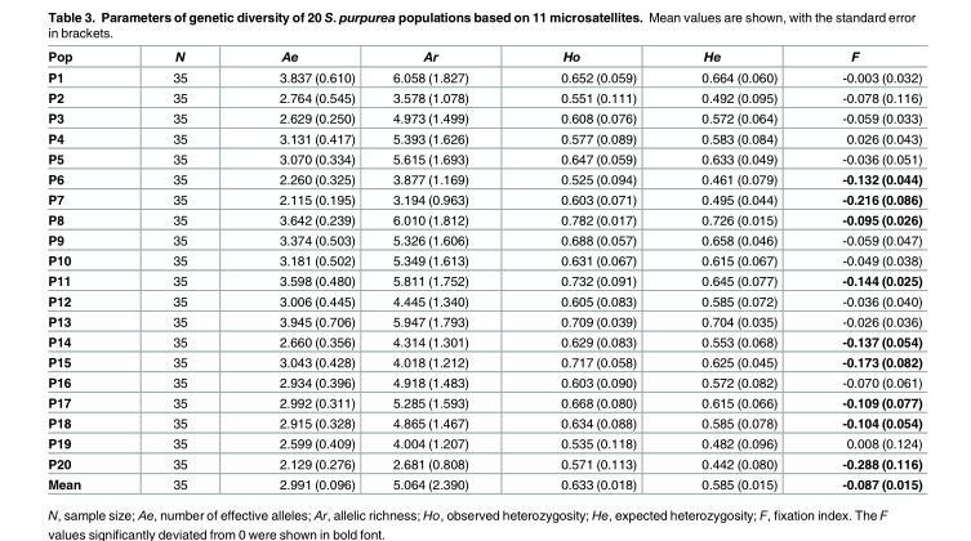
<table><thead><tr><td>Pop</td><td>N</td><td>Ae</td><td>Ar</td><td>Ho</td><td>He</td><td>F</td></tr></thead><tbody><tr><td>P1</td><td>35</td><td>3.837 (0.610)</td><td>6.058 (1.827)</td><td>0.652 (0.059)</td><td>0.664 (0.060)</td><td>-0.003 (0.032)</td></tr><tr><td>P2</td><td>35</td><td>2.764 (0.545)</td><td>3.578 (1.078)</td><td>0.551 (0.111)</td><td>0.492 (0.095)</td><td>-0.078 (0.116)</td></tr><tr><td>P3</td><td>35</td><td>2.629 (0.250)</td><td>4.973 (1.499)</td><td>0.608 (0.076)</td><td>0.572 (0.064)</td><td>-0.059 (0.033)</td></tr><tr><td>P4</td><td>35</td><td>3.131 (0.417)</td><td>5.393 (1.626)</td><td>0.577 (0.089)</td><td>0.583 (0.084)</td><td>0.026 (0.043)</td></tr><tr><td>P5</td><td>35</td><td>3.070 (0.334)</td><td>5.615 (1.693)</td><td>0.647 (0.059)</td><td>0.633 (0.049)</td><td>-0.036 (0.051)</td></tr><tr><td>P6</td><td>35</td><td>2.260 (0.325)</td><td>3.877 (1.169)</td><td>0.525 (0.094)</td><td>0.461 (0.079)</td><td>-0.132 (0.044)</td></tr><tr><td>P7</td><td>35</td><td>2.115 (0.195)</td><td>3.194 (0.963)</td><td>0.603 (0.071)</td><td>0.495 (0.044)</td><td>-0.216 (0.086)</td></tr><tr><td>P8</td><td>35</td><td>3.642 (0.239)</td><td>6.010 (1.812)</td><td>0.782 (0.017)</td><td>0.726 (0.015)</td><td>-0.095 (0.026)</td></tr><tr><td>P9</td><td>35</td><td>3.374 (0.503)</td><td>5.326 (1.606)</td><td>0.688 (0.057)</td><td>0.658 (0.046)</td><td>-0.059 (0.047)</td></tr><tr><td>P10</td><td>35</td><td>3.181 (0.502)</td><td>5.349 (1.613)</td><td>0.631 (0.067)</td><td>0.615 (0.067)</td><td>-0.049 (0.038)</td></tr><tr><td>P11</td><td>35</td><td>3.598 (0.480)</td><td>5.811 (1.752)</td><td>0.732 (0.091)</td><td>0.645 (0.077)</td><td>-0.144 (0.025)</td></tr><tr><td>P12</td><td>35</td><td>3.006 (0.445)</td><td>4.445 (1.340)</td><td>0.605 (0.083)</td><td>0.585 (0.072)</td><td>-0.036 (0.040)</td></tr><tr><td>P13</td><td>35</td><td>3.945 (0.706)</td><td>5.947 (1.793)</td><td>0.709 (0.039)</td><td>0.704 (0.035)</td><td>-0.026 (0.036)</td></tr><tr><td>P14</td><td>35</td><td>2.660 (0.356)</td><td>4.314 (1.301)</td><td>0.629 (0.083)</td><td>0.553 (0.068)</td><td>-0.137 (0.054)</td></tr><tr><td>P15</td><td>35</td><td>3.043 (0.428)</td><td>4.018 (1.212)</td><td>0.717 (0.058)</td><td>0.625 (0.045)</td><td>-0.173 (0.082)</td></tr><tr><td>P16</td><td>35</td><td>2.934 (0.396)</td><td>4.918 (1.483)</td><td>0.603 (0.090)</td><td>0.572 (0.082)</td><td>-0.070 (0.061)</td></tr><tr><td>P17</td><td>35</td><td>2.992 (0.311)</td><td>5.285 (1.593)</td><td>0.668 (0.080)</td><td>0.615 (0.066)</td><td>-0.109 (0.077)</td></tr><tr><td>P18</td><td>35</td><td>2.915 (0.328)</td><td>4.865 (1.467)</td><td>0.634 (0.088)</td><td>0.585 (0.078)</td><td>-0.104 (0.054)</td></tr><tr><td>P19</td><td>35</td><td>2.599 (0.409)</td><td>4.004 (1.207)</td><td>0.535 (0.118)</td><td>0.482 (0.096)</td><td>0.008 (0.124)</td></tr><tr><td>P20</td><td>35</td><td>2.129 (0.276)</td><td>2.681 (0.808)</td><td>0.571 (0.113)</td><td>0.442 (0.080)</td><td>-0.288 (0.116)</td></tr><tr><td>Mean</td><td>35</td><td>2.991 (0.096)</td><td>5.064 (2.390)</td><td>0.633 (0.018)</td><td>0.585 (0.015)</td><td>-0.087 (0.015)</td></tr></tbody></table>